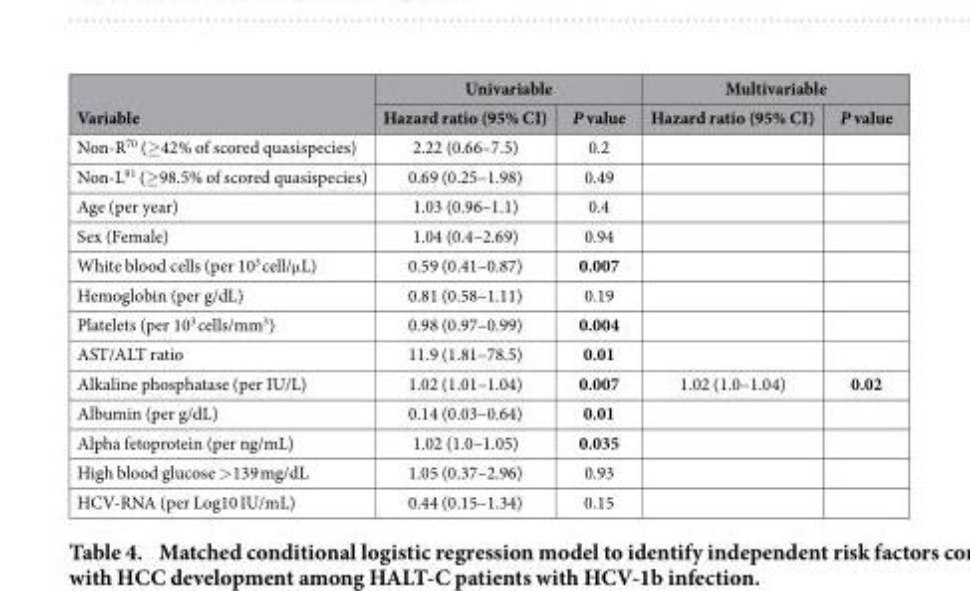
<table><thead><tr><td rowspan="2">Variable</td><td colspan="2">Univariable</td><td colspan="2">Multivariable</td></tr><tr><td>Hazard ratio (95% CI)</td><td>P value</td><td>Hazard ratio (95% CI)</td><td>P value</td></tr></thead><tbody><tr><td>Non-R<sup>70</sup> (≥ 42% of scored quasispecies)</td><td>2.22 (0.66–7.5)</td><td>0.2</td><td></td><td></td></tr><tr><td>Non-L<sup>91</sup> (≥ 98.5% of scored quasispecies)</td><td>0.69 (0.25–1.98)</td><td>0.49</td><td></td><td></td></tr><tr><td>Age (per year)</td><td>1.03 (0.96–1.1)</td><td>0.4</td><td></td><td></td></tr><tr><td>Sex (Female)</td><td>1.04 (0.4–2.69)</td><td>0.94</td><td></td><td></td></tr><tr><td>White blood cells (per 10<sup>3</sup> cell/μ L)</td><td>0.59 (0.41–0.87)</td><td>0.007</td><td></td><td></td></tr><tr><td>Hemoglobin (per g/dL)</td><td>0.81 (0.58–1.11)</td><td>0.19</td><td></td><td></td></tr><tr><td>Platelets (per 10<sup>3</sup> cells/mm<sup>3</sup>)</td><td>0.98 (0.97–0.99)</td><td>0.004</td><td></td><td></td></tr><tr><td>AST/ALT ratio</td><td>11.9 (1.81–78.5)</td><td>0.01</td><td></td><td></td></tr><tr><td>Alkaline phosphatase (per IU/L)</td><td>1.02 (1.01–1.04)</td><td>0.007</td><td>1.02 (1.0–1.04)</td><td>0.02</td></tr><tr><td>Albumin (per g/dL)</td><td>0.14 (0.03–0.64)</td><td>0.01</td><td></td><td></td></tr><tr><td>Alpha fetoprotein (per ng/mL)</td><td>1.02 (1.0–1.05)</td><td>0.035</td><td></td><td></td></tr><tr><td>High blood glucose &gt; 139 mg/dL</td><td>1.05 (0.37–2.96)</td><td>0.93</td><td></td><td></td></tr><tr><td>HCV-RNA (per Log10 IU/mL)</td><td>0.44 (0.15–1.34)</td><td>0.15</td><td></td><td></td></tr></tbody></table>